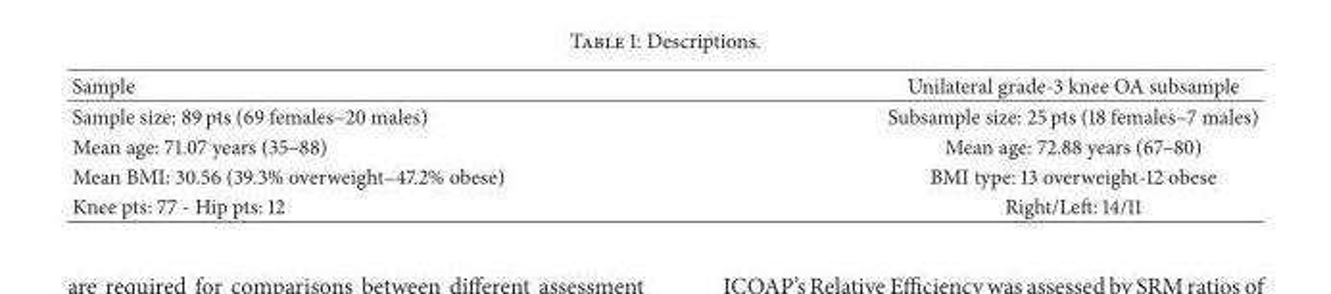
<table><thead><tr><td>Sample</td><td>Unilateral grade-3 knee OA subsample</td></tr></thead><tbody><tr><td>Sample size: 89 pts (69 females–20 males)</td><td>Subsample size: 25 pts (18 females–7 males)</td></tr><tr><td>Mean age: 71.07 years (35–88)</td><td>Mean age: 72.88 years (67–80)</td></tr><tr><td>Mean BMI: 30.56 (39.3% overweight–47.2% obese)</td><td>BMI type: 13 overweight-12 obese</td></tr><tr><td>Knee pts: 77 - Hip pts: 12</td><td>Right/Left: 14/11</td></tr></tbody></table>